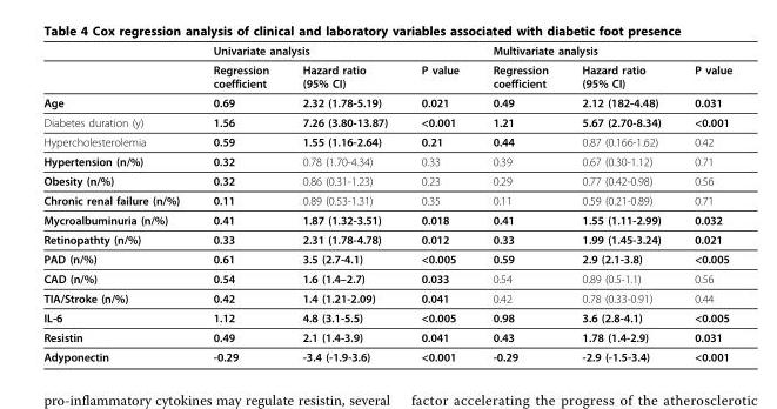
<table><thead><tr><td rowspan="2"></td><td colspan="3">Univariate analysis</td><td colspan="3">Multivariate analysis</td></tr><tr><td>Regression coefficient</td><td>Hazard ratio (95% CI)</td><td>P value</td><td>Regression coefficient</td><td>Hazard ratio (95% CI)</td><td>P value</td></tr></thead><tbody><tr><td>Age</td><td>0.69</td><td>2.32 (1.78-5.19)</td><td>0.021</td><td>0.49</td><td>2.12 (182-4.48)</td><td>0.031</td></tr><tr><td>Diabetes duration (y)</td><td>1.56</td><td>7.26 (3.80-13.87)</td><td>&lt;0.001</td><td>1.21</td><td>5.67 (2.70-8.34)</td><td>&lt;0.001</td></tr><tr><td>Hypercholesterolemia</td><td>0.59</td><td>1.55 (1.16-2.64)</td><td>0.21</td><td>0.44</td><td>0.87 (0.166-1.62)</td><td>0.42</td></tr><tr><td>Hypertension (n/%)</td><td>0.32</td><td>0.78 (1.70-4.34)</td><td>0.33</td><td>0.39</td><td>0.67 (0.30-1.12)</td><td>0.71</td></tr><tr><td>Obesity (n/%)</td><td>0.32</td><td>0.86 (0.31-1.23)</td><td>0.23</td><td>0.29</td><td>0.77 (0.42-0.98)</td><td>0.56</td></tr><tr><td>Chronic renal failure (n/%)</td><td>0.11</td><td>0.89 (0.53-1.31)</td><td>0.35</td><td>0.11</td><td>0.59 (0.21-0.89)</td><td>0.71</td></tr><tr><td>Mycroalbuminuria (n/%)</td><td>0.41</td><td>1.87 (1.32-3.51)</td><td>0.018</td><td>0.41</td><td>1.55 (1.11-2.99)</td><td>0.032</td></tr><tr><td>Retinopathty (n/%)</td><td>0.33</td><td>2.31 (1.78-4.78)</td><td>0.012</td><td>0.33</td><td>1.99 (1.45-3.24)</td><td>0.021</td></tr><tr><td>PAD (n/%)</td><td>0.61</td><td>3.5 (2.7-4.1)</td><td>&lt;0.005</td><td>0.59</td><td>2.9 (2.1-3.8)</td><td>&lt;0.005</td></tr><tr><td>CAD (n/%)</td><td>0.54</td><td>1.6 (1.4–2.7)</td><td>0.033</td><td>0.54</td><td>0.89 (0.5-1.1)</td><td>0.56</td></tr><tr><td>TIA/Stroke (n/%)</td><td>0.42</td><td>1.4 (1.21-2.09)</td><td>0.041</td><td>0.42</td><td>0.78 (0.33-0.91)</td><td>0.44</td></tr><tr><td>IL-6</td><td>1.12</td><td>4.8 (3.1-5.5)</td><td>&lt;0.005</td><td>0.98</td><td>3.6 (2.8-4.1)</td><td>&lt;0.005</td></tr><tr><td>Resistin</td><td>0.49</td><td>2.1 (1.4-3.9)</td><td>0.041</td><td>0.43</td><td>1.78 (1.4-2.9)</td><td>0.031</td></tr><tr><td>Adyponectin</td><td>-0.29</td><td>-3.4 (-1.9-3.6)</td><td>&lt;0.001</td><td>-0.29</td><td>-2.9 (-1.5-3.4)</td><td>&lt;0.001</td></tr></tbody></table>